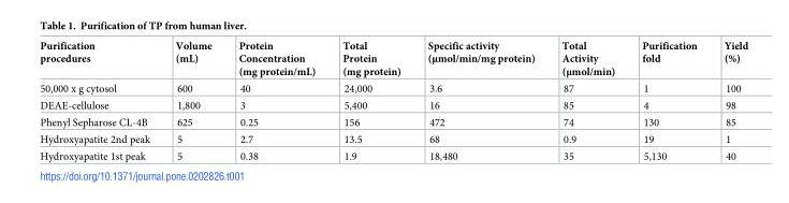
<table><thead><tr><td>Purification procedures</td><td>Volume (mL)</td><td>Protein Concentration (mg protein/mL)</td><td>Total Protein (mg protein)</td><td>Specific activity (μmol/min/mg protein)</td><td>Total Activity (μmol/min)</td><td>Purification fold</td><td>Yield (%)</td></tr></thead><tbody><tr><td>50,000 x g cytosol</td><td>600</td><td>40</td><td>24,000</td><td>3.6</td><td>87</td><td>1</td><td>100</td></tr><tr><td>DEAE-cellulose</td><td>1,800</td><td>3</td><td>5,400</td><td>16</td><td>85</td><td>4</td><td>98</td></tr><tr><td>Phenyl Sepharose CL-4B</td><td>625</td><td>0.25</td><td>156</td><td>472</td><td>74</td><td>130</td><td>85</td></tr><tr><td>Hydroxyapatite 2nd peak</td><td>5</td><td>2.7</td><td>13.5</td><td>68</td><td>0.9</td><td>19</td><td>1</td></tr><tr><td>Hydroxyapatite 1st peak</td><td>5</td><td>0.38</td><td>1.9</td><td>18,480</td><td>35</td><td>5,130</td><td>40</td></tr></tbody></table>